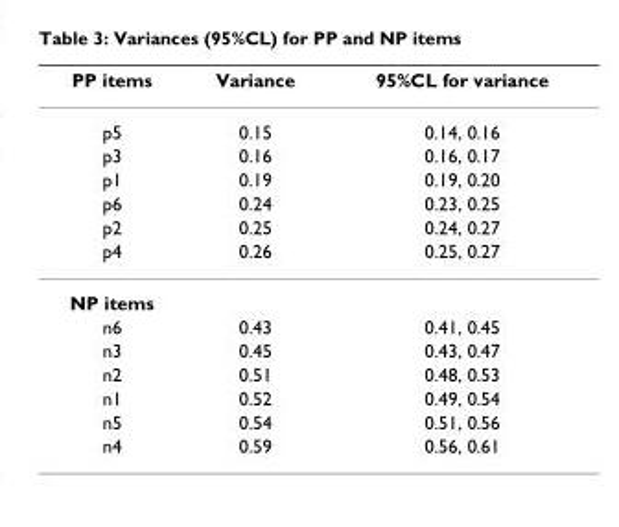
<table><thead><tr><td>PP items</td><td>Variance</td><td>95%CL for variance</td></tr></thead><tbody><tr><td>p5</td><td>0.15</td><td>0.14, 0.16</td></tr><tr><td>p3</td><td>0.16</td><td>0.16, 0.17</td></tr><tr><td>p1</td><td>0.19</td><td>0.19, 0.20</td></tr><tr><td>p6</td><td>0.24</td><td>0.23, 0.25</td></tr><tr><td>p2</td><td>0.25</td><td>0.24, 0.27</td></tr><tr><td>p4</td><td>0.26</td><td>0.25, 0.27</td></tr><tr><td colspan="3">NP items</td></tr><tr><td>n6</td><td>0.43</td><td>0.41, 0.45</td></tr><tr><td>n3</td><td>0.45</td><td>0.43, 0.47</td></tr><tr><td>n2</td><td>0.51</td><td>0.48, 0.53</td></tr><tr><td>n1</td><td>0.52</td><td>0.49, 0.54</td></tr><tr><td>n5</td><td>0.54</td><td>0.51, 0.56</td></tr><tr><td>n4</td><td>0.59</td><td>0.56, 0.61</td></tr></tbody></table>